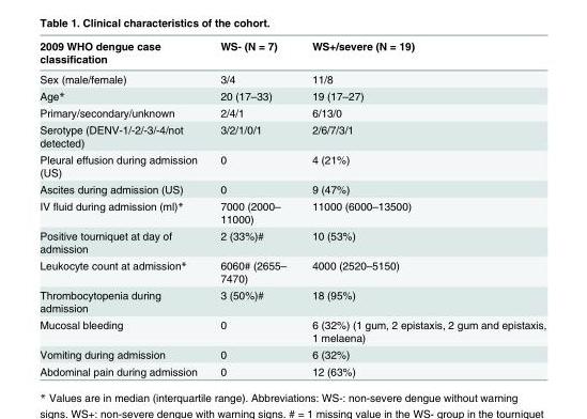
<table><thead><tr><td>2009 WHO dengue case classification</td><td>WS- (N = 7)</td><td>WS+/severe (N = 19)</td></tr></thead><tbody><tr><td>Sex (male/female)</td><td>3/4</td><td>11/8</td></tr><tr><td>Age*</td><td>20 (17–33)</td><td>19 (17–27)</td></tr><tr><td>Primary/secondary/unknown</td><td>2/4/1</td><td>6/13/0</td></tr><tr><td>Serotype (DENV-1/-2/-3/-4/not detected)</td><td>3/2/1/0/1</td><td>2/6/7/3/1</td></tr><tr><td>Pleural effusion during admission (US)</td><td>0</td><td>4 (21%)</td></tr><tr><td>Ascites during admission (US)</td><td>0</td><td>9 (47%)</td></tr><tr><td>IV fluid during admission (ml)*</td><td>7000 (2000– 11000)</td><td>11000 (6000–13500)</td></tr><tr><td>Positive tourniquet at day of admission</td><td>2 (33%)#</td><td>10 (53%)</td></tr><tr><td>Leukocyte count at admission*</td><td>6060# (2655– 7470)</td><td>4000 (2520–5150)</td></tr><tr><td>Thrombocytopenia during admission</td><td>3 (50%)#</td><td>18 (95%)</td></tr><tr><td>Mucosal bleeding</td><td>0</td><td>6 (32%) (1 gum, 2 epistaxis, 2 gum and epistaxis, 1 melaena)</td></tr><tr><td>Vomiting during admission</td><td>0</td><td>6 (32%)</td></tr><tr><td>Abdominal pain during admission</td><td>0</td><td>12 (63%)</td></tr></tbody></table>